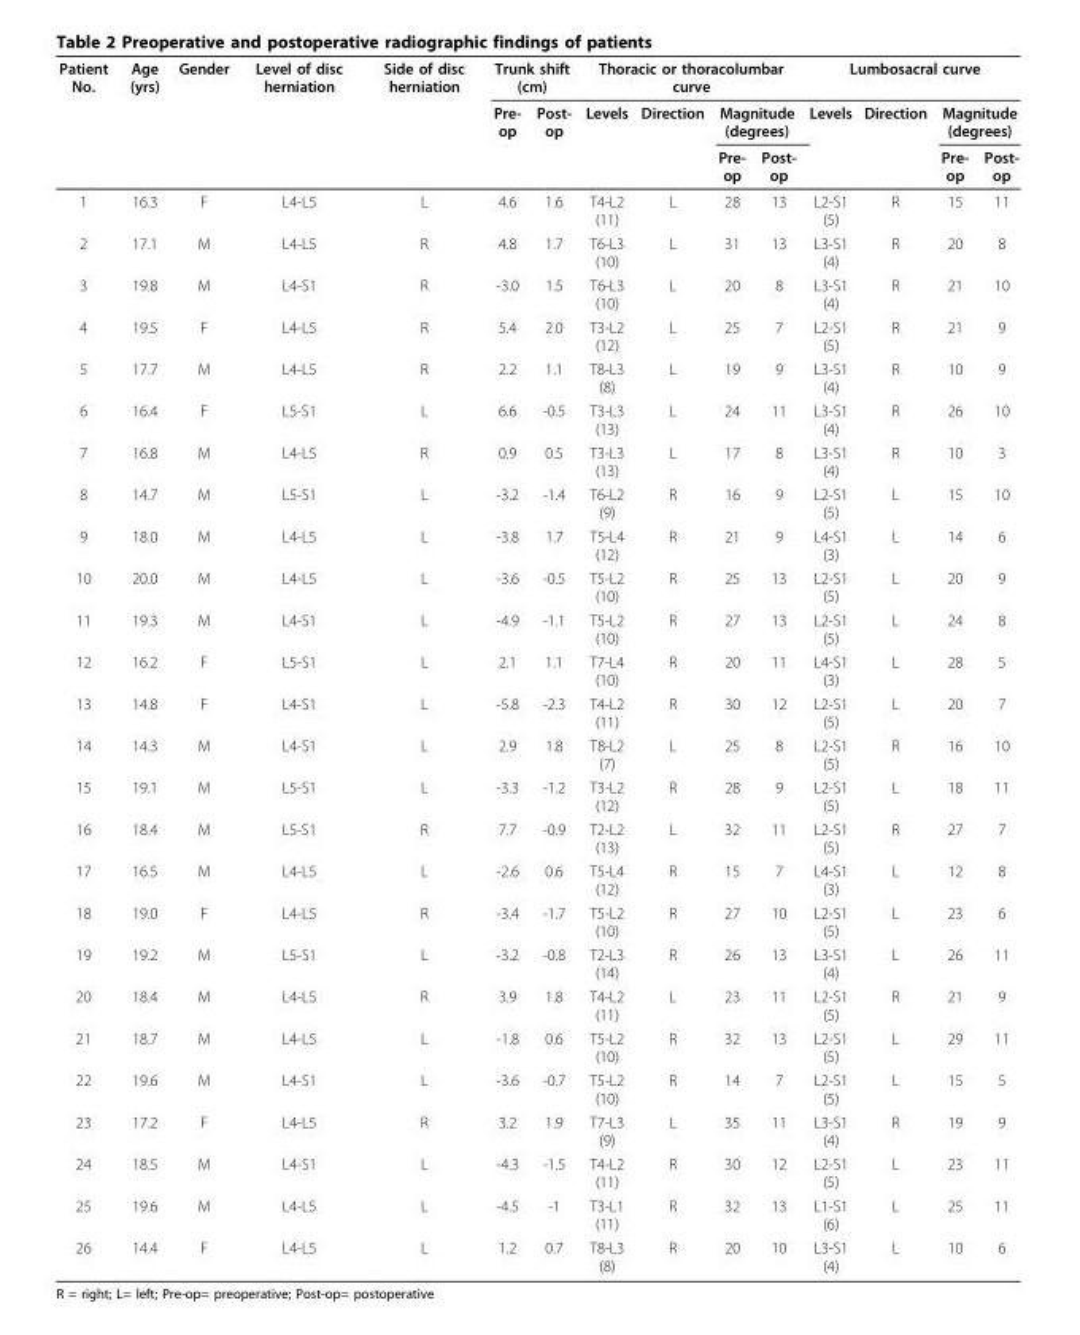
<table><thead><tr><td rowspan="3">Patient No.</td><td rowspan="3">Age (yrs)</td><td rowspan="3">Gender</td><td rowspan="3">Level of disc herniation</td><td rowspan="3">Side of disc herniation</td><td colspan="2">Trunk shift (cm)</td><td colspan="4">Thoracic or thoracolumbar curve</td><td colspan="4">Lumbosacral curve</td></tr><tr><td rowspan="2">Pre- op</td><td rowspan="2">Post- op</td><td rowspan="2">Levels</td><td rowspan="2">Direction</td><td colspan="2">Magnitude (degrees)</td><td rowspan="2">Levels</td><td rowspan="2">Direction</td><td colspan="2">Magnitude (degrees)</td></tr><tr><td>Pre- op</td><td>Post- op</td><td>Pre- op</td><td>Post- op</td></tr></thead><tbody><tr><td>1</td><td>16.3</td><td>F</td><td>L4-L5</td><td>L</td><td>4.6</td><td>1.6</td><td>T4-L2 (11)</td><td>L</td><td>28</td><td>13</td><td>L2-S1 (5)</td><td>R</td><td>15</td><td>11</td></tr><tr><td>2</td><td>17.1</td><td>M</td><td>L4-L5</td><td>R</td><td>4.8</td><td>1.7</td><td>T6-L3 (10)</td><td>L</td><td>31</td><td>13</td><td>L3-S1 (4)</td><td>R</td><td>20</td><td>8</td></tr><tr><td>3</td><td>19.8</td><td>M</td><td>L4-S1</td><td>R</td><td>-3.0</td><td>1.5</td><td>T6-L3 (10)</td><td>L</td><td>20</td><td>8</td><td>L3-S1 (4)</td><td>R</td><td>21</td><td>10</td></tr><tr><td>4</td><td>19.5</td><td>F</td><td>L4-L5</td><td>R</td><td>5.4</td><td>2.0</td><td>T3-L2 (12)</td><td>L</td><td>25</td><td>7</td><td>L2-S1 (5)</td><td>R</td><td>21</td><td>9</td></tr><tr><td>5</td><td>17.7</td><td>M</td><td>L4-L5</td><td>R</td><td>2.2</td><td>1.1</td><td>T8-L3 (8)</td><td>L</td><td>19</td><td>9</td><td>L3-S1 (4)</td><td>R</td><td>10</td><td>9</td></tr><tr><td>6</td><td>16.4</td><td>F</td><td>L5-S1</td><td>L</td><td>6.6</td><td>-0.5</td><td>T3-L3 (13)</td><td>L</td><td>24</td><td>11</td><td>L3-S1 (4)</td><td>R</td><td>26</td><td>10</td></tr><tr><td>7</td><td>16.8</td><td>M</td><td>L4-L5</td><td>R</td><td>0.9</td><td>0.5</td><td>T3-L3 (13)</td><td>L</td><td>17</td><td>8</td><td>L3-S1 (4)</td><td>R</td><td>10</td><td>3</td></tr><tr><td>8</td><td>14.7</td><td>M</td><td>L5-S1</td><td>L</td><td>-3.2</td><td>-1.4</td><td>T6-L2 (9)</td><td>R</td><td>16</td><td>9</td><td>L2-S1 (5)</td><td>L</td><td>15</td><td>10</td></tr><tr><td>9</td><td>18.0</td><td>M</td><td>L4-L5</td><td>L</td><td>-3.8</td><td>1.7</td><td>T5-L4 (12)</td><td>R</td><td>21</td><td>9</td><td>L4-S1 (3)</td><td>L</td><td>14</td><td>6</td></tr><tr><td>10</td><td>20.0</td><td>M</td><td>L4-L5</td><td>L</td><td>-3.6</td><td>-0.5</td><td>T5-L2 (10)</td><td>R</td><td>25</td><td>13</td><td>L2-S1 (5)</td><td>L</td><td>20</td><td>9</td></tr><tr><td>11</td><td>19.3</td><td>M</td><td>L4-S1</td><td>L</td><td>-4.9</td><td>-1.1</td><td>T5-L2 (10)</td><td>R</td><td>27</td><td>13</td><td>L2-S1 (5)</td><td>L</td><td>24</td><td>8</td></tr><tr><td>12</td><td>16.2</td><td>F</td><td>L5-S1</td><td>L</td><td>2.1</td><td>1.1</td><td>T7-L4 (10)</td><td>R</td><td>20</td><td>11</td><td>L4-S1 (3)</td><td>L</td><td>28</td><td>5</td></tr><tr><td>13</td><td>14.8</td><td>F</td><td>L4-S1</td><td>L</td><td>-5.8</td><td>-2.3</td><td>T4-L2 (11)</td><td>R</td><td>30</td><td>12</td><td>L2-S1 (5)</td><td>L</td><td>20</td><td>7</td></tr><tr><td>14</td><td>14.3</td><td>M</td><td>L4-S1</td><td>L</td><td>2.9</td><td>1.8</td><td>T8-L2 (7)</td><td>L</td><td>25</td><td>8</td><td>L2-S1 (5)</td><td>R</td><td>16</td><td>10</td></tr><tr><td>15</td><td>19.1</td><td>M</td><td>L5-S1</td><td>L</td><td>-3.3</td><td>-1.2</td><td>T3-L2 (12)</td><td>R</td><td>28</td><td>9</td><td>L2-S1 (5)</td><td>L</td><td>18</td><td>11</td></tr><tr><td>16</td><td>18.4</td><td>M</td><td>L5-S1</td><td>R</td><td>7.7</td><td>-0.9</td><td>T2-L2 (13)</td><td>L</td><td>32</td><td>11</td><td>L2-S1 (5)</td><td>R</td><td>27</td><td>7</td></tr><tr><td>17</td><td>16.5</td><td>M</td><td>L4-L5</td><td>L</td><td>-2.6</td><td>0.6</td><td>T5-L4 (12)</td><td>R</td><td>15</td><td>7</td><td>L4-S1 (3)</td><td>L</td><td>12</td><td>8</td></tr><tr><td>18</td><td>19.0</td><td>F</td><td>L4-L5</td><td>R</td><td>-3.4</td><td>-1.7</td><td>T5-L2 (10)</td><td>R</td><td>27</td><td>10</td><td>L2-S1 (5)</td><td>L</td><td>23</td><td>6</td></tr><tr><td>19</td><td>19.2</td><td>M</td><td>L5-S1</td><td>L</td><td>-3.2</td><td>-0.8</td><td>T2-L3 (14)</td><td>R</td><td>26</td><td>13</td><td>L3-S1 (4)</td><td>L</td><td>26</td><td>11</td></tr><tr><td>20</td><td>18.4</td><td>M</td><td>L4-L5</td><td>R</td><td>3.9</td><td>1.8</td><td>T4-L2 (11)</td><td>L</td><td>23</td><td>11</td><td>L2-S1 (5)</td><td>R</td><td>21</td><td>9</td></tr><tr><td>21</td><td>18.7</td><td>M</td><td>L4-L5</td><td>L</td><td>-1.8</td><td>0.6</td><td>T5-L2 (10)</td><td>R</td><td>32</td><td>13</td><td>L2-S1 (5)</td><td>L</td><td>29</td><td>11</td></tr><tr><td>22</td><td>19.6</td><td>M</td><td>L4-S1</td><td>L</td><td>-3.6</td><td>-0.7</td><td>T5-L2 (10)</td><td>R</td><td>14</td><td>7</td><td>L2-S1 (5)</td><td>L</td><td>15</td><td>5</td></tr><tr><td>23</td><td>17.2</td><td>F</td><td>L4-L5</td><td>R</td><td>3.2</td><td>1.9</td><td>T7-L3 (9)</td><td>L</td><td>35</td><td>11</td><td>L3-S1 (4)</td><td>R</td><td>19</td><td>9</td></tr><tr><td>24</td><td>18.5</td><td>M</td><td>L4-S1</td><td>L</td><td>-4.3</td><td>-1.5</td><td>T4-L2 (11)</td><td>R</td><td>30</td><td>12</td><td>L2-S1 (5)</td><td>L</td><td>23</td><td>11</td></tr><tr><td>25</td><td>19.6</td><td>M</td><td>L4-L5</td><td>L</td><td>-4.5</td><td>-1</td><td>T3-L1 (11)</td><td>R</td><td>32</td><td>13</td><td>L1-S1 (6)</td><td>L</td><td>25</td><td>11</td></tr><tr><td>26</td><td>14.4</td><td>F</td><td>L4-L5</td><td>L</td><td>1.2</td><td>0.7</td><td>T8-L3 (8)</td><td>R</td><td>20</td><td>10</td><td>L3-S1 (4)</td><td>L</td><td>10</td><td>6</td></tr></tbody></table>